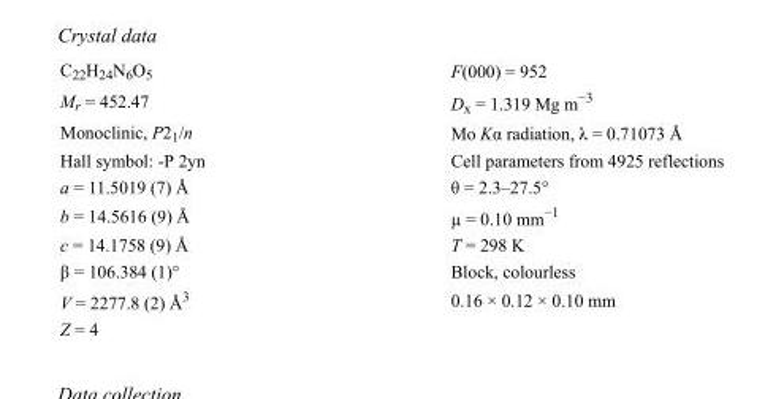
<table><tbody><tr><td>C<sub>22</sub>H<sub>24</sub>N<sub>6</sub>O<sub>5</sub></td><td>F(000) = 952</td></tr><tr><td>M<sub>r</sub> = 452.47</td><td>D<sub>x</sub> = 1.319 Mg m<sup>−3</sup></td></tr><tr><td>Monoclinic, P2<sub>1</sub>/n</td><td>Mo Kα radiation, λ = 0.71073 Å</td></tr><tr><td>Hall symbol: -P 2yn</td><td>Cell parameters from 4925 reflections</td></tr><tr><td>a = 11.5019 (7) Å</td><td>θ = 2.3–27.5°</td></tr><tr><td>b = 14.5616 (9) Å</td><td>µ = 0.10 mm<sup>−1</sup></td></tr><tr><td>c = 14.1758 (9) Å</td><td>T = 298 K</td></tr><tr><td>β = 106.384 (1)°</td><td>Block, colourless</td></tr><tr><td>V = 2277.8 (2) Å<sup>3</sup></td><td>0.16 × 0.12 × 0.10 mm</td></tr><tr><td>Z = 4</td><td></td></tr></tbody></table>